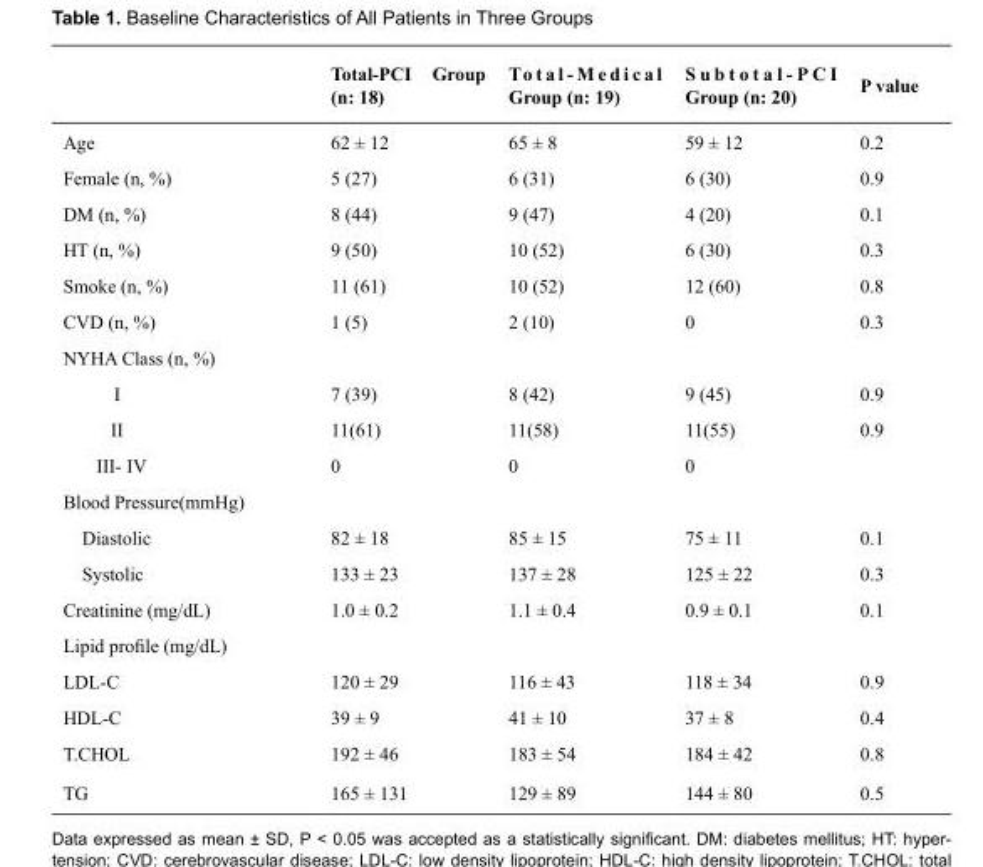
<table><thead><tr><td></td><td>Total-PCI Group (n: 18)</td><td>To t a l - M e d i c a l Group (n: 19)</td><td>S u b t o t a l - P C I Group (n: 20)</td><td>P value</td></tr></thead><tbody><tr><td>Age</td><td>62 ± 12</td><td>65 ± 8</td><td>59 ± 12</td><td>0.2</td></tr><tr><td>Female (n, %)</td><td>5 (27)</td><td>6 (31)</td><td>6 (30)</td><td>0.9</td></tr><tr><td>DM (n, %)</td><td>8 (44)</td><td>9 (47)</td><td>4 (20)</td><td>0.1</td></tr><tr><td>HT (n, %)</td><td>9 (50)</td><td>10 (52)</td><td>6 (30)</td><td>0.3</td></tr><tr><td>Smoke (n, %)</td><td>11 (61)</td><td>10 (52)</td><td>12 (60)</td><td>0.8</td></tr><tr><td>CVD (n, %)</td><td>1 (5)</td><td>2 (10)</td><td>0</td><td>0.3</td></tr><tr><td colspan="5">NYHA Class (n, %)</td></tr><tr><td>I</td><td>7 (39)</td><td>8 (42)</td><td>9 (45)</td><td>0.9</td></tr><tr><td>II</td><td>11(61)</td><td>11(58)</td><td>11(55)</td><td>0.9</td></tr><tr><td>III- IV</td><td>0</td><td>0</td><td>0</td><td></td></tr><tr><td colspan="5">Blood Pressure(mmHg)</td></tr><tr><td>Diastolic</td><td>82 ± 18</td><td>85 ± 15</td><td>75 ± 11</td><td>0.1</td></tr><tr><td>Systolic</td><td>133 ± 23</td><td>137 ± 28</td><td>125 ± 22</td><td>0.3</td></tr><tr><td>Creatinine (mg/dL)</td><td>1.0 ± 0.2</td><td>1.1 ± 0.4</td><td>0.9 ± 0.1</td><td>0.1</td></tr><tr><td colspan="5">Lipid profile (mg/dL)</td></tr><tr><td>LDL-C</td><td>120 ± 29</td><td>116 ± 43</td><td>118 ± 34</td><td>0.9</td></tr><tr><td>HDL-C</td><td>39 ± 9</td><td>41 ± 10</td><td>37 ± 8</td><td>0.4</td></tr><tr><td>T.CHOL</td><td>192 ± 46</td><td>183 ± 54</td><td>184 ± 42</td><td>0.8</td></tr><tr><td>TG</td><td>165 ± 131</td><td>129 ± 89</td><td>144 ± 80</td><td>0.5</td></tr></tbody></table>